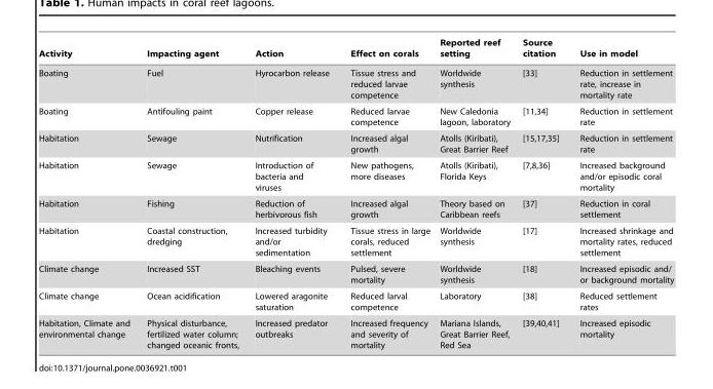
<table><thead><tr><td>Activity</td><td>Impacting agent</td><td>Action</td><td>Effect on corals</td><td>Reported reef setting</td><td>Source citation</td><td>Use in model</td></tr></thead><tbody><tr><td>Boating</td><td>Fuel</td><td>Hyrocarbon release</td><td>Tissue stress and reduced larvae competence</td><td>Worldwide synthesis</td><td>[33]</td><td>Reduction in settlement rate, increase in mortality rate</td></tr><tr><td>Boating</td><td>Antifouling paint</td><td>Copper release</td><td>Reduced larvae competence</td><td>New Caledonia lagoon, laboratory</td><td>[11,34]</td><td>Reduction in settlement rate</td></tr><tr><td>Habitation</td><td>Sewage</td><td>Nutrification</td><td>Increased algal growth</td><td>Atolls (Kiribati), Great Barrier Reef</td><td>[15,17,35]</td><td>Reduction in settlement rate</td></tr><tr><td>Habitation</td><td>Sewage</td><td>Introduction of bacteria and viruses</td><td>New pathogens, more diseases</td><td>Atolls (Kiribati), Florida Keys</td><td>[7,8,36]</td><td>Increased background and/or episodic coral mortality</td></tr><tr><td>Habitation</td><td>Fishing</td><td>Reduction of herbivorous fish</td><td>Increased algal growth</td><td>Theory based on Caribbean reefs</td><td>[37]</td><td>Reduction in coral settlement</td></tr><tr><td>Habitation</td><td>Coastal construction, dredging</td><td>Increased turbidity and/or sedimentation</td><td>Tissue stress in large corals, reduced settlement</td><td>Worldwide synthesis</td><td>[17]</td><td>Increased shrinkage and mortality rates, reduced settlement</td></tr><tr><td>Climate change</td><td>Increased SST</td><td>Bleaching events</td><td>Pulsed, severe mortality</td><td>Worldwide synthesis</td><td>[18]</td><td>Increased episodic and/ or background mortality</td></tr><tr><td>Climate change</td><td>Ocean acidification</td><td>Lowered aragonite saturation</td><td>Reduced larval competence</td><td>Laboratory</td><td>[38]</td><td>Reduced settlement rates</td></tr><tr><td>Habitation, Climate and environmental change</td><td>Physical disturbance, fertilized water column; changed oceanic fronts,</td><td>Increased predator outbreaks</td><td>Increased frequency and severity of mortality</td><td>Mariana Islands, Great Barrier Reef, Red Sea</td><td>[39,40,41]</td><td>Increased episodic mortality</td></tr></tbody></table>